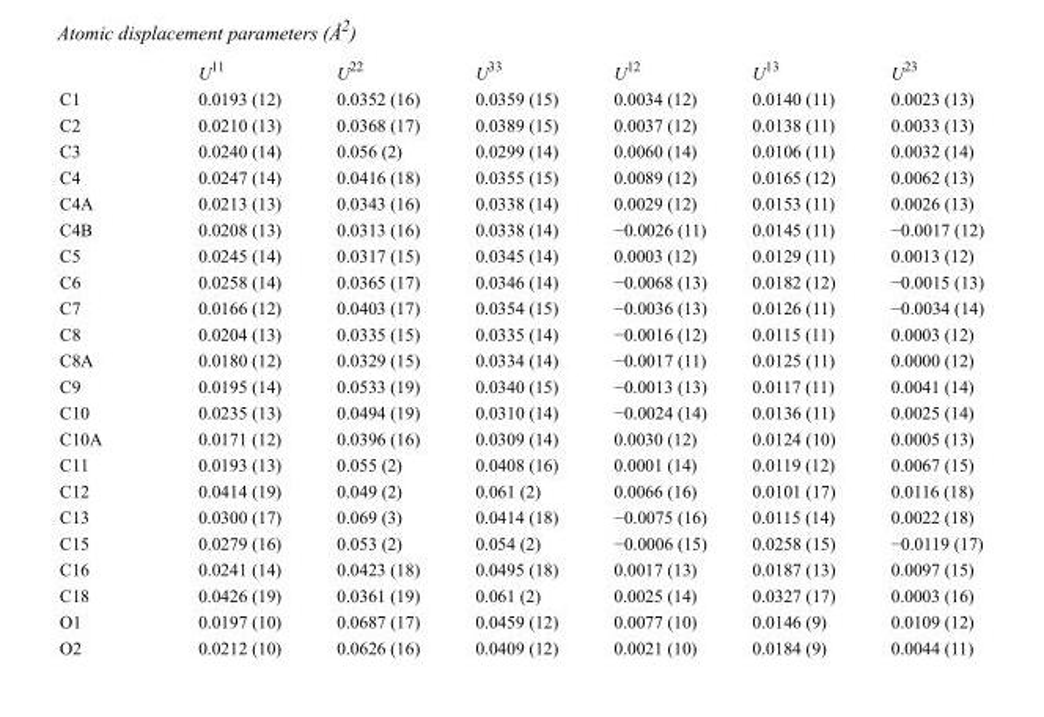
<table><thead><tr><td></td><td>U<sup>11</sup></td><td>U<sup>22</sup></td><td>U<sup>33</sup></td><td>U<sup>12</sup></td><td>U<sup>13</sup></td><td>U<sup>23</sup></td></tr></thead><tbody><tr><td>C1</td><td>0.0193 (12)</td><td>0.0352 (16)</td><td>0.0359 (15)</td><td>0.0034 (12)</td><td>0.0140 (11)</td><td>0.0023 (13)</td></tr><tr><td>C2</td><td>0.0210 (13)</td><td>0.0368 (17)</td><td>0.0389 (15)</td><td>0.0037 (12)</td><td>0.0138 (11)</td><td>0.0033 (13)</td></tr><tr><td>C3</td><td>0.0240 (14)</td><td>0.056 (2)</td><td>0.0299 (14)</td><td>0.0060 (14)</td><td>0.0106 (11)</td><td>0.0032 (14)</td></tr><tr><td>C4</td><td>0.0247 (14)</td><td>0.0416 (18)</td><td>0.0355 (15)</td><td>0.0089 (12)</td><td>0.0165 (12)</td><td>0.0062 (13)</td></tr><tr><td>C4A</td><td>0.0213 (13)</td><td>0.0343 (16)</td><td>0.0338 (14)</td><td>0.0029 (12)</td><td>0.0153 (11)</td><td>0.0026 (13)</td></tr><tr><td>C4B</td><td>0.0208 (13)</td><td>0.0313 (16)</td><td>0.0338 (14)</td><td>−0.0026 (11)</td><td>0.0145 (11)</td><td>−0.0017 (12)</td></tr><tr><td>C5</td><td>0.0245 (14)</td><td>0.0317 (15)</td><td>0.0345 (14)</td><td>0.0003 (12)</td><td>0.0129 (11)</td><td>0.0013 (12)</td></tr><tr><td>C6</td><td>0.0258 (14)</td><td>0.0365 (17)</td><td>0.0346 (14)</td><td>−0.0068 (13)</td><td>0.0182 (12)</td><td>−0.0015 (13)</td></tr><tr><td>C7</td><td>0.0166 (12)</td><td>0.0403 (17)</td><td>0.0354 (15)</td><td>−0.0036 (13)</td><td>0.0126 (11)</td><td>−0.0034 (14)</td></tr><tr><td>C8</td><td>0.0204 (13)</td><td>0.0335 (15)</td><td>0.0335 (14)</td><td>−0.0016 (12)</td><td>0.0115 (11)</td><td>0.0003 (12)</td></tr><tr><td>C8A</td><td>0.0180 (12)</td><td>0.0329 (15)</td><td>0.0334 (14)</td><td>−0.0017 (11)</td><td>0.0125 (11)</td><td>0.0000 (12)</td></tr><tr><td>C9</td><td>0.0195 (14)</td><td>0.0533 (19)</td><td>0.0340 (15)</td><td>−0.0013 (13)</td><td>0.0117 (11)</td><td>0.0041 (14)</td></tr><tr><td>C10</td><td>0.0235 (13)</td><td>0.0494 (19)</td><td>0.0310 (14)</td><td>−0.0024 (14)</td><td>0.0136 (11)</td><td>0.0025 (14)</td></tr><tr><td>C10A</td><td>0.0171 (12)</td><td>0.0396 (16)</td><td>0.0309 (14)</td><td>0.0030 (12)</td><td>0.0124 (10)</td><td>0.0005 (13)</td></tr><tr><td>C11</td><td>0.0193 (13)</td><td>0.055 (2)</td><td>0.0408 (16)</td><td>0.0001 (14)</td><td>0.0119 (12)</td><td>0.0067 (15)</td></tr><tr><td>C12</td><td>0.0414 (19)</td><td>0.049 (2)</td><td>0.061 (2)</td><td>0.0066 (16)</td><td>0.0101 (17)</td><td>0.0116 (18)</td></tr><tr><td>C13</td><td>0.0300 (17)</td><td>0.069 (3)</td><td>0.0414 (18)</td><td>−0.0075 (16)</td><td>0.0115 (14)</td><td>0.0022 (18)</td></tr><tr><td>C15</td><td>0.0279 (16)</td><td>0.053 (2)</td><td>0.054 (2)</td><td>−0.0006 (15)</td><td>0.0258 (15)</td><td>−0.0119 (17)</td></tr><tr><td>C16</td><td>0.0241 (14)</td><td>0.0423 (18)</td><td>0.0495 (18)</td><td>0.0017 (13)</td><td>0.0187 (13)</td><td>0.0097 (15)</td></tr><tr><td>C18</td><td>0.0426 (19)</td><td>0.0361 (19)</td><td>0.061 (2)</td><td>0.0025 (14)</td><td>0.0327 (17)</td><td>0.0003 (16)</td></tr><tr><td>O1</td><td>0.0197 (10)</td><td>0.0687 (17)</td><td>0.0459 (12)</td><td>0.0077 (10)</td><td>0.0146 (9)</td><td>0.0109 (12)</td></tr><tr><td>O2</td><td>0.0212 (10)</td><td>0.0626 (16)</td><td>0.0409 (12)</td><td>0.0021 (10)</td><td>0.0184 (9)</td><td>0.0044 (11)</td></tr></tbody></table>